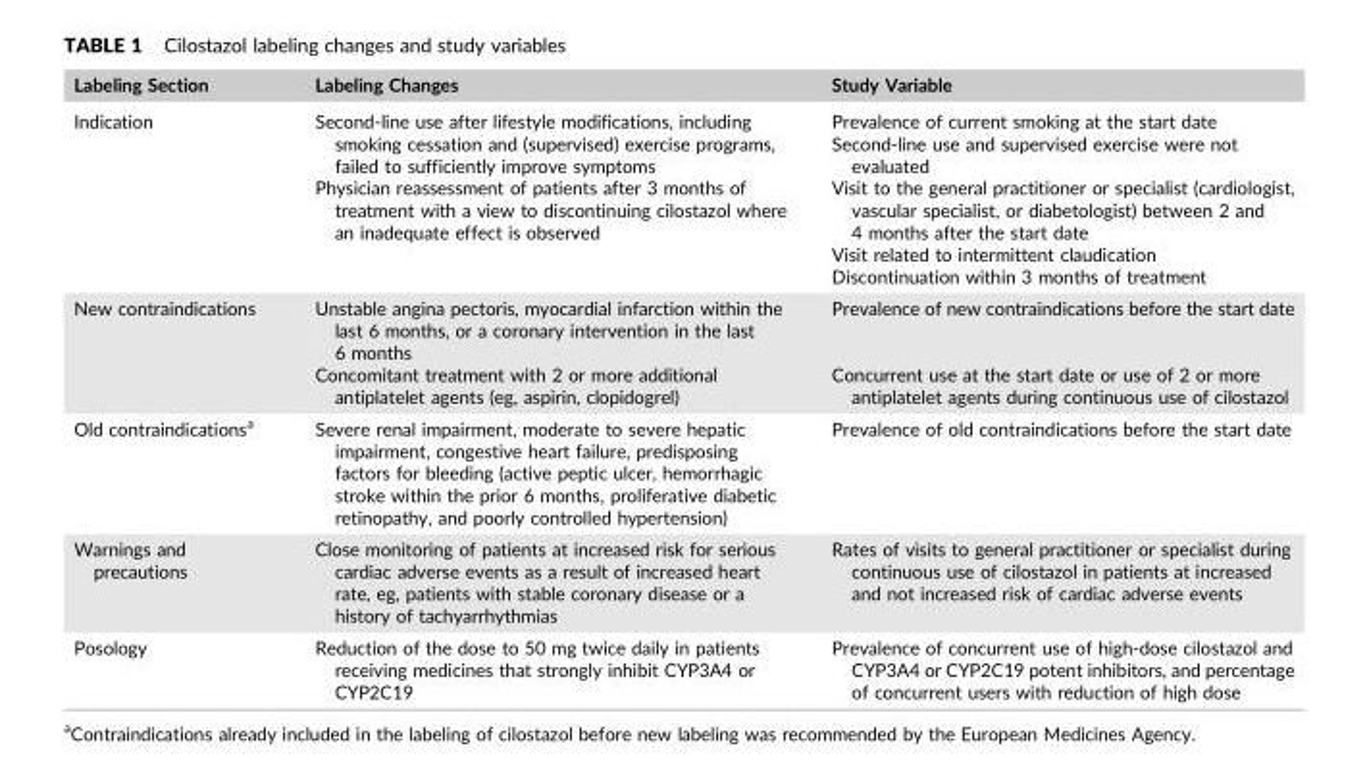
<table><thead><tr><td>Labeling Section</td><td>Labeling Changes</td><td>Study Variable</td></tr></thead><tbody><tr><td rowspan="4">Indication</td><td>Second‐line use after lifestyle modifications, including smoking cessation and (supervised) exercise programs, failed to sufficiently improve symptoms</td><td>Prevalence of current smoking at the start date Second‐line use and supervised exercise were not evaluated</td></tr><tr><td rowspan="3">Physician reassessment of patients after 3 months of treatment with a view to discontinuing cilostazol where an inadequate effect is observed</td><td>Visit to the general practitioner or specialist (cardiologist, vascular specialist, or diabetologist) between 2 and 4 months after the start date</td></tr><tr><td>Visit related to intermittent claudication</td></tr><tr><td>Discontinuation within 3 months of treatment</td></tr><tr><td rowspan="2">New contraindications</td><td>Unstable angina pectoris, myocardial infarction within the last 6 months, or a coronary intervention in the last 6 months</td><td>Prevalence of new contraindications before the start date</td></tr><tr><td>Concomitant treatment with 2 or more additional antiplatelet agents (eg, aspirin, clopidogrel)</td><td>Concurrent use at the start date or use of 2 or more antiplatelet agents during continuous use of cilostazol</td></tr><tr><td>Old contraindications<sup>a</sup></td><td>Severe renal impairment, moderate to severe hepatic impairment, congestive heart failure, predisposing factors for bleeding (active peptic ulcer, hemorrhagic stroke within the prior 6 months, proliferative diabetic retinopathy, and poorly controlled hypertension)</td><td>Prevalence of old contraindications before the start date</td></tr><tr><td>Warnings and precautions</td><td>Close monitoring of patients at increased risk for serious cardiac adverse events as a result of increased heart rate, eg, patients with stable coronary disease or a history of tachyarrhythmias</td><td>Rates of visits to general practitioner or specialist during continuous use of cilostazol in patients at increased and not increased risk of cardiac adverse events</td></tr><tr><td>Posology</td><td>Reduction of the dose to 50 mg twice daily in patients receiving medicines that strongly inhibit CYP3A4 or CYP2C19</td><td>Prevalence of concurrent use of high‐dose cilostazol and CYP3A4 or CYP2C19 potent inhibitors, and percentage of concurrent users with reduction of high dose</td></tr></tbody></table>